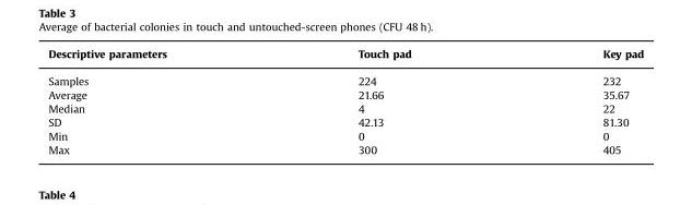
<table><thead><tr><td>Descriptive parameters</td><td>Touch pad</td><td>Key pad</td></tr></thead><tbody><tr><td>Samples</td><td>224</td><td>232</td></tr><tr><td>Average</td><td>21.66</td><td>35.67</td></tr><tr><td>Median</td><td>4</td><td>22</td></tr><tr><td>SD</td><td>42.13</td><td>81.30</td></tr><tr><td>Min</td><td>0</td><td>0</td></tr><tr><td>Max</td><td>300</td><td>405</td></tr></tbody></table>